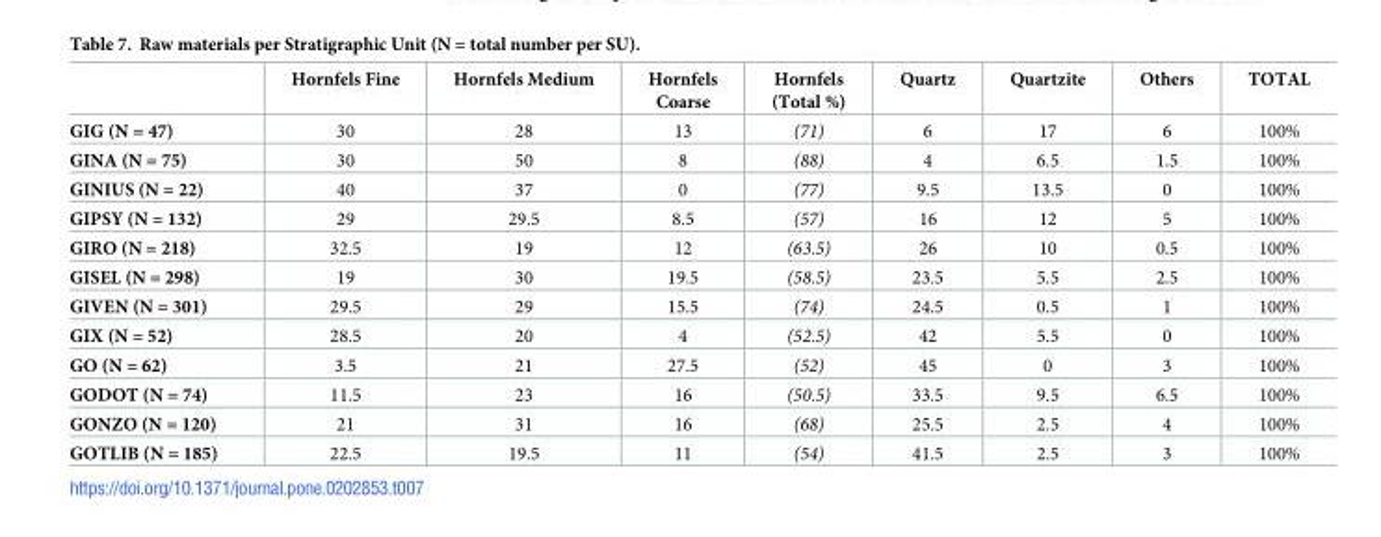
<table><thead><tr><td></td><td>Hornfels Fine</td><td>Hornfels Medium</td><td>Hornfels Coarse</td><td>Hornfels (Total %)</td><td>Quartz</td><td>Quartzite</td><td>Others</td><td>TOTAL</td></tr></thead><tbody><tr><td>GIG (N = 47)</td><td>30</td><td>28</td><td>13</td><td>(71)</td><td>6</td><td>17</td><td>6</td><td>100%</td></tr><tr><td>GINA (N = 75)</td><td>30</td><td>50</td><td>8</td><td>(88)</td><td>4</td><td>6.5</td><td>1.5</td><td>100%</td></tr><tr><td>GINIUS (N = 22)</td><td>40</td><td>37</td><td>0</td><td>(77)</td><td>9.5</td><td>13.5</td><td>0</td><td>100%</td></tr><tr><td>GIPSY (N = 132)</td><td>29</td><td>29.5</td><td>8.5</td><td>(57)</td><td>16</td><td>12</td><td>5</td><td>100%</td></tr><tr><td>GIRO (N = 218)</td><td>32.5</td><td>19</td><td>12</td><td>(63.5)</td><td>26</td><td>10</td><td>0.5</td><td>100%</td></tr><tr><td>GISEL (N = 298)</td><td>19</td><td>30</td><td>19.5</td><td>(58.5)</td><td>23.5</td><td>5.5</td><td>2.5</td><td>100%</td></tr><tr><td>GIVEN (N = 301)</td><td>29.5</td><td>29</td><td>15.5</td><td>(74)</td><td>24.5</td><td>0.5</td><td>1</td><td>100%</td></tr><tr><td>GIX (N = 52)</td><td>28.5</td><td>20</td><td>4</td><td>(52.5)</td><td>42</td><td>5.5</td><td>0</td><td>100%</td></tr><tr><td>GO (N = 62)</td><td>3.5</td><td>21</td><td>27.5</td><td>(52)</td><td>45</td><td>0</td><td>3</td><td>100%</td></tr><tr><td>GODOT (N = 74)</td><td>11.5</td><td>23</td><td>16</td><td>(50.5)</td><td>33.5</td><td>9.5</td><td>6.5</td><td>100%</td></tr><tr><td>GONZO (N = 120)</td><td>21</td><td>31</td><td>16</td><td>(68)</td><td>25.5</td><td>2.5</td><td>4</td><td>100%</td></tr><tr><td>GOTLIB (N = 185)</td><td>22.5</td><td>19.5</td><td>11</td><td>(54)</td><td>41.5</td><td>2.5</td><td>3</td><td>100%</td></tr></tbody></table>